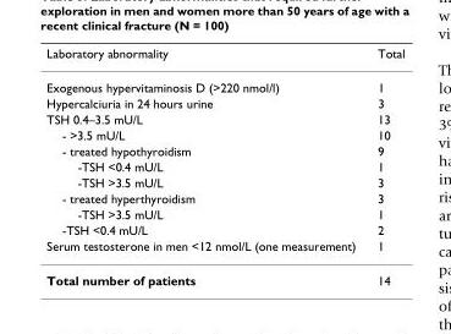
<table><thead><tr><td>Laboratory abnormality</td><td>Total</td></tr></thead><tbody><tr><td>Exogenous hypervitaminosis D (&gt;220 nmol/l)</td><td>1</td></tr><tr><td>Hypercalciuria in 24 hours urine</td><td>3</td></tr><tr><td>TSH 0.4–3.5 mU/L</td><td>13</td></tr><tr><td>- &gt;3.5 mU/L</td><td>10</td></tr><tr><td>- treated hypothyroidism</td><td>9</td></tr><tr><td>-TSH &lt;0.4 mU/L</td><td>1</td></tr><tr><td>-TSH &gt;3.5 mU/L</td><td>3</td></tr><tr><td>- treated hyperthyroidism</td><td>3</td></tr><tr><td>-TSH &gt;3.5 mU/L</td><td>1</td></tr><tr><td>-TSH &lt;0.4 mU/L</td><td>2</td></tr><tr><td>Serum testosterone in men &lt;12 nmol/L (one measurement)</td><td>1</td></tr><tr><td>Total number of patients</td><td>14</td></tr></tbody></table>